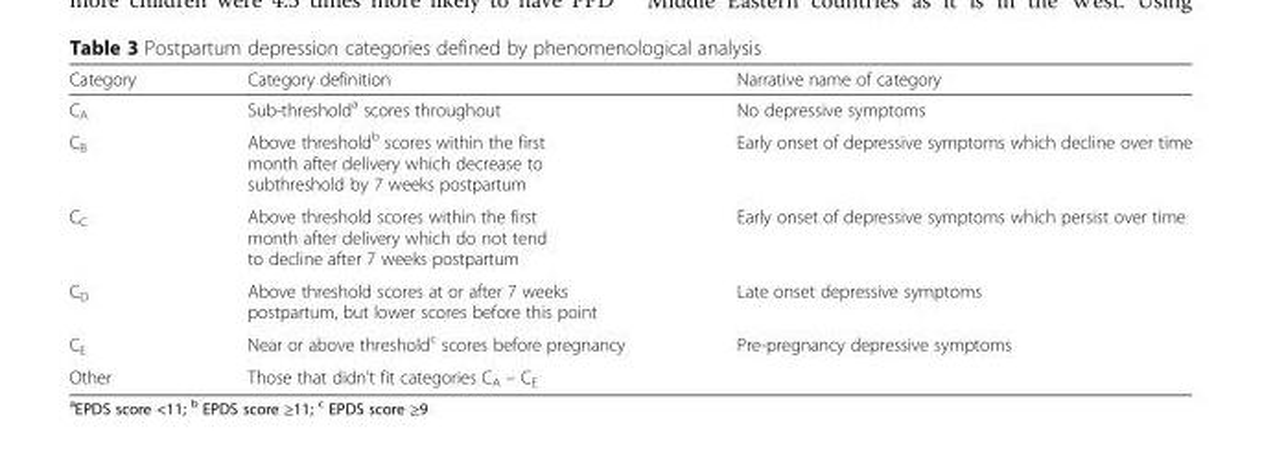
<table><thead><tr><td>Category</td><td>Category definition</td><td>Narrative name of category</td></tr></thead><tbody><tr><td>C<sub>A</sub></td><td>Sub-threshold<sup>a</sup> scores throughout</td><td>No depressive symptoms</td></tr><tr><td>C<sub>B</sub></td><td>Above threshold<sup>b</sup> scores within the first month after delivery which decrease to subthreshold by 7 weeks postpartum</td><td>Early onset of depressive symptoms which decline over time</td></tr><tr><td>C<sub>C</sub></td><td>Above threshold scores within the first month after delivery which do not tend to decline after 7 weeks postpartum</td><td>Early onset of depressive symptoms which persist over time</td></tr><tr><td>C<sub>D</sub></td><td>Above threshold scores at or after 7 weeks postpartum, but lower scores before this point</td><td>Late onset depressive symptoms</td></tr><tr><td>C<sub>E</sub></td><td>Near or above threshold<sup>c</sup> scores before pregnancy</td><td>Pre-pregnancy depressive symptoms</td></tr><tr><td>Other</td><td>Those that didn’t fit categories C<sub>A</sub> – C<sub>E</sub></td><td></td></tr></tbody></table>